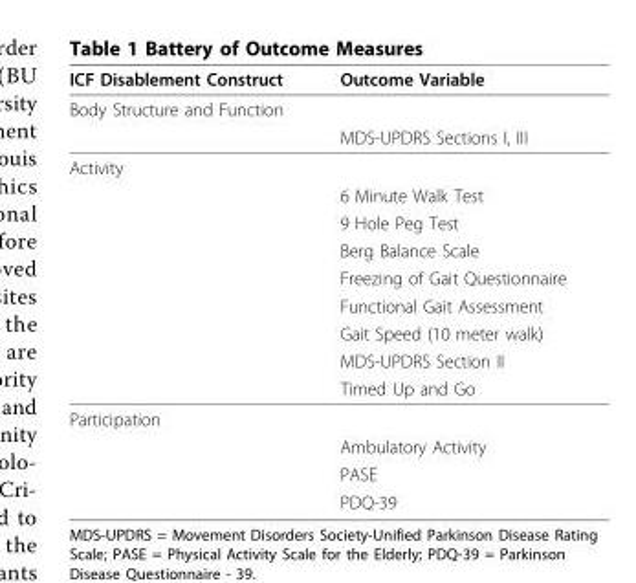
<table><thead><tr><td>ICF Disablement Construct</td><td>Outcome Variable</td></tr></thead><tbody><tr><td colspan="2">Body Structure and Function</td></tr><tr><td></td><td>MDS-UPDRS Sections I, III</td></tr><tr><td colspan="2">Activity</td></tr><tr><td></td><td>6 Minute Walk Test</td></tr><tr><td></td><td>9 Hole Peg Test</td></tr><tr><td></td><td>Berg Balance Scale</td></tr><tr><td></td><td>Freezing of Gait Questionnaire</td></tr><tr><td></td><td>Functional Gait Assessment</td></tr><tr><td></td><td>Gait Speed (10 meter walk)</td></tr><tr><td></td><td>MDS-UPDRS Section II</td></tr><tr><td></td><td>Timed Up and Go</td></tr><tr><td colspan="2">Participation</td></tr><tr><td></td><td>Ambulatory Activity</td></tr><tr><td></td><td>PASE</td></tr><tr><td></td><td>PDQ-39</td></tr></tbody></table>